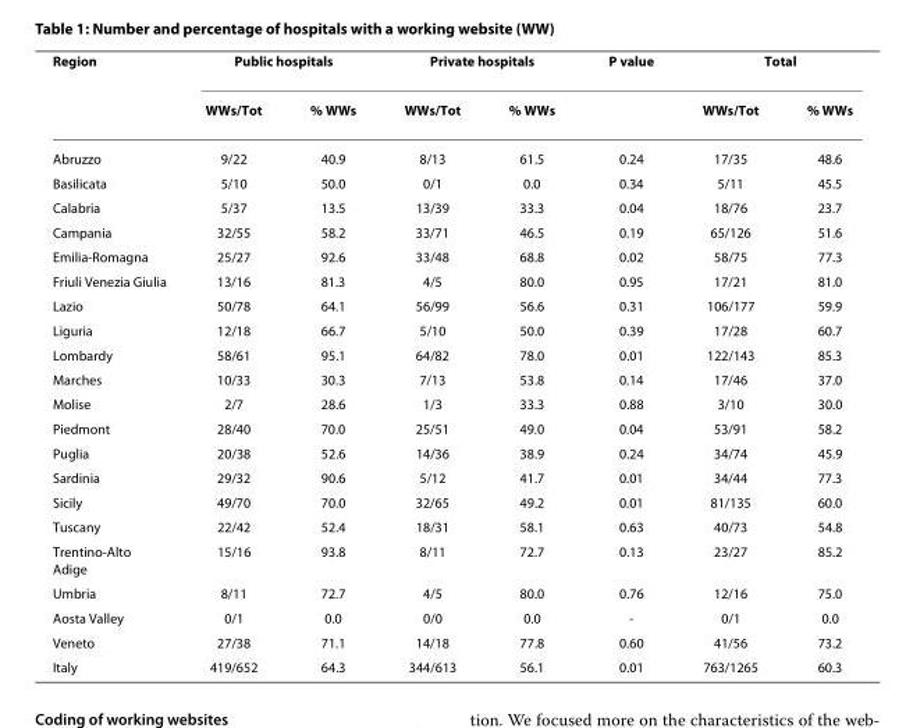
<table><thead><tr><td rowspan="2">Region</td><td colspan="2">Public hospitals</td><td colspan="2">Private hospitals</td><td rowspan="2">P value</td><td colspan="2">Total</td></tr><tr><td>WWs/Tot</td><td>% WWs</td><td>WWs/Tot</td><td>% WWs</td><td>WWs/Tot</td><td>% WWs</td></tr></thead><tbody><tr><td>Abruzzo</td><td>9/22</td><td>40.9</td><td>8/13</td><td>61.5</td><td>0.24</td><td>17/35</td><td>48.6</td></tr><tr><td>Basilicata</td><td>5/10</td><td>50.0</td><td>0/1</td><td>0.0</td><td>0.34</td><td>5/11</td><td>45.5</td></tr><tr><td>Calabria</td><td>5/37</td><td>13.5</td><td>13/39</td><td>33.3</td><td>0.04</td><td>18/76</td><td>23.7</td></tr><tr><td>Campania</td><td>32/55</td><td>58.2</td><td>33/71</td><td>46.5</td><td>0.19</td><td>65/126</td><td>51.6</td></tr><tr><td>Emilia-Romagna</td><td>25/27</td><td>92.6</td><td>33/48</td><td>68.8</td><td>0.02</td><td>58/75</td><td>77.3</td></tr><tr><td>Friuli Venezia Giulia</td><td>13/16</td><td>81.3</td><td>4/5</td><td>80.0</td><td>0.95</td><td>17/21</td><td>81.0</td></tr><tr><td>Lazio</td><td>50/78</td><td>64.1</td><td>56/99</td><td>56.6</td><td>0.31</td><td>106/177</td><td>59.9</td></tr><tr><td>Liguria</td><td>12/18</td><td>66.7</td><td>5/10</td><td>50.0</td><td>0.39</td><td>17/28</td><td>60.7</td></tr><tr><td>Lombardy</td><td>58/61</td><td>95.1</td><td>64/82</td><td>78.0</td><td>0.01</td><td>122/143</td><td>85.3</td></tr><tr><td>Marches</td><td>10/33</td><td>30.3</td><td>7/13</td><td>53.8</td><td>0.14</td><td>17/46</td><td>37.0</td></tr><tr><td>Molise</td><td>2/7</td><td>28.6</td><td>1/3</td><td>33.3</td><td>0.88</td><td>3/10</td><td>30.0</td></tr><tr><td>Piedmont</td><td>28/40</td><td>70.0</td><td>25/51</td><td>49.0</td><td>0.04</td><td>53/91</td><td>58.2</td></tr><tr><td>Puglia</td><td>20/38</td><td>52.6</td><td>14/36</td><td>38.9</td><td>0.24</td><td>34/74</td><td>45.9</td></tr><tr><td>Sardinia</td><td>29/32</td><td>90.6</td><td>5/12</td><td>41.7</td><td>0.01</td><td>34/44</td><td>77.3</td></tr><tr><td>Sicily</td><td>49/70</td><td>70.0</td><td>32/65</td><td>49.2</td><td>0.01</td><td>81/135</td><td>60.0</td></tr><tr><td>Tuscany</td><td>22/42</td><td>52.4</td><td>18/31</td><td>58.1</td><td>0.63</td><td>40/73</td><td>54.8</td></tr><tr><td>Trentino-Alto Adige</td><td>15/16</td><td>93.8</td><td>8/11</td><td>72.7</td><td>0.13</td><td>23/27</td><td>85.2</td></tr><tr><td>Umbria</td><td>8/11</td><td>72.7</td><td>4/5</td><td>80.0</td><td>0.76</td><td>12/16</td><td>75.0</td></tr><tr><td>Aosta Valley</td><td>0/1</td><td>0.0</td><td>0/0</td><td>0.0</td><td>-</td><td>0/1</td><td>0.0</td></tr><tr><td>Veneto</td><td>27/38</td><td>71.1</td><td>14/18</td><td>77.8</td><td>0.60</td><td>41/56</td><td>73.2</td></tr><tr><td>Italy</td><td>419/652</td><td>64.3</td><td>344/613</td><td>56.1</td><td>0.01</td><td>763/1265</td><td>60.3</td></tr></tbody></table>